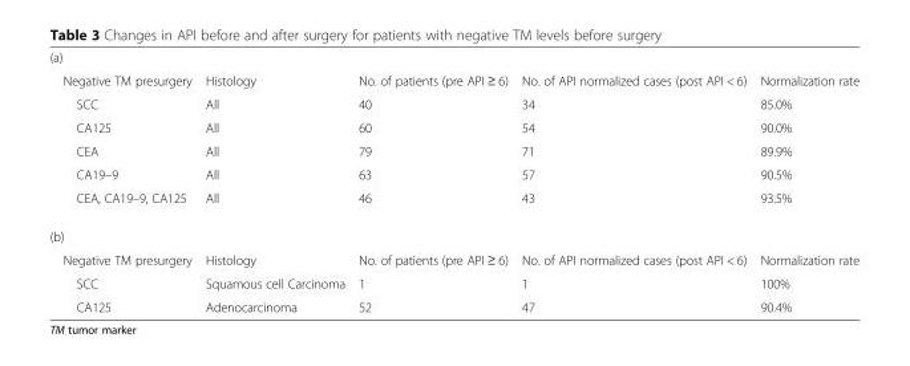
<table><tbody><tr><td colspan="5">(a)</td></tr><tr><td>Negative TM presurgery</td><td>Histology</td><td>No. of patients (pre API ≥ 6)</td><td>No. of API normalized cases (post API &lt; 6)</td><td>Normalization rate</td></tr><tr><td>SCC</td><td>All</td><td>40</td><td>34</td><td>85.0%</td></tr><tr><td>CA125</td><td>All</td><td>60</td><td>54</td><td>90.0%</td></tr><tr><td>CEA</td><td>All</td><td>79</td><td>71</td><td>89.9%</td></tr><tr><td>CA19–9</td><td>All</td><td>63</td><td>57</td><td>90.5%</td></tr><tr><td>CEA, CA19–9, CA125</td><td>All</td><td>46</td><td>43</td><td>93.5%</td></tr><tr><td colspan="5">(b)</td></tr><tr><td>Negative TM presurgery</td><td>Histology</td><td>No. of patients (pre API ≥ 6)</td><td>No. of API normalized cases (post API &lt; 6)</td><td>Normalization rate</td></tr><tr><td>SCC</td><td>Squamous cell Carcinoma</td><td>1</td><td>1</td><td>100%</td></tr><tr><td>CA125</td><td>Adenocarcinoma</td><td>52</td><td>47</td><td>90.4%</td></tr></tbody></table>